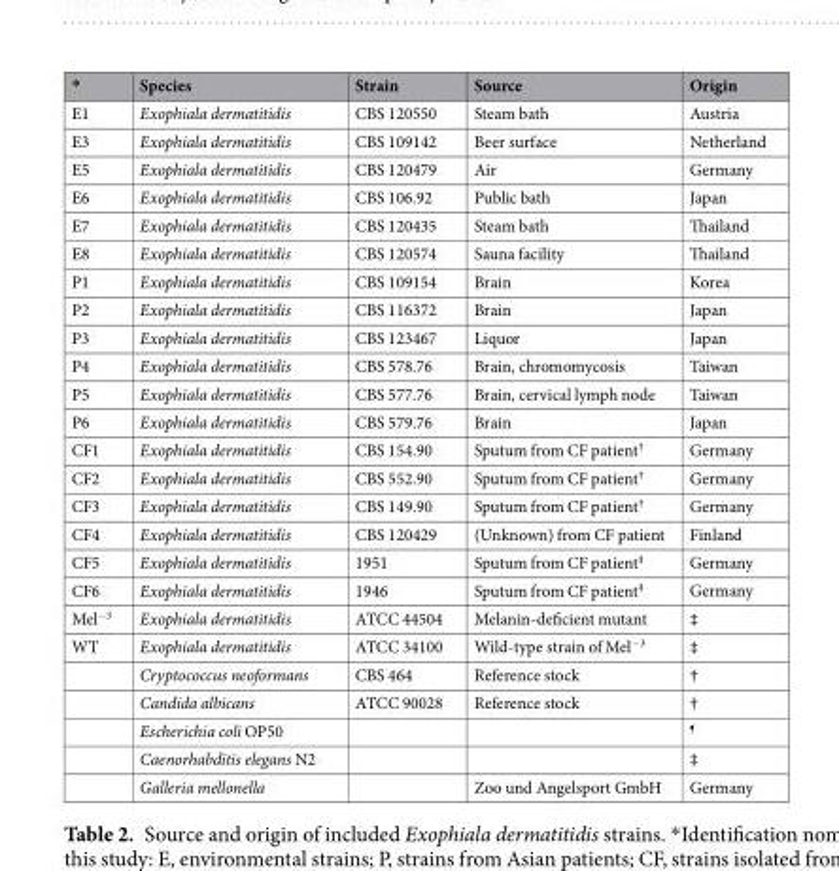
<table><thead><tr><td>*</td><td>Species</td><td>Strain</td><td>Source</td><td>Origin</td></tr></thead><tbody><tr><td>E1</td><td>Exophiala dermatitidis</td><td>CBS 120550</td><td>Steam bath</td><td>Austria</td></tr><tr><td>E3</td><td>Exophiala dermatitidis</td><td>CBS 109142</td><td>Beer surface</td><td>Netherland</td></tr><tr><td>E5</td><td>Exophiala dermatitidis</td><td>CBS 120479</td><td>Air</td><td>Germany</td></tr><tr><td>E6</td><td>Exophiala dermatitidis</td><td>CBS 106.92</td><td>Public bath</td><td>Japan</td></tr><tr><td>E7</td><td>Exophiala dermatitidis</td><td>CBS 120435</td><td>Steam bath</td><td>Thailand</td></tr><tr><td>E8</td><td>Exophiala dermatitidis</td><td>CBS 120574</td><td>Sauna facility</td><td>Thailand</td></tr><tr><td>P1</td><td>Exophiala dermatitidis</td><td>CBS 109154</td><td>Brain</td><td>Korea</td></tr><tr><td>P2</td><td>Exophiala dermatitidis</td><td>CBS 116372</td><td>Brain</td><td>Japan</td></tr><tr><td>P3</td><td>Exophiala dermatitidis</td><td>CBS 123467</td><td>Liquor</td><td>Japan</td></tr><tr><td>P4</td><td>Exophiala dermatitidis</td><td>CBS 578.76</td><td>Brain, chromomycosis</td><td>Taiwan</td></tr><tr><td>P5</td><td>Exophiala dermatitidis</td><td>CBS 577.76</td><td>Brain, cervical lymph node</td><td>Taiwan</td></tr><tr><td>P6</td><td>Exophiala dermatitidis</td><td>CBS 579.76</td><td>Brain</td><td>Japan</td></tr><tr><td>CF1</td><td>Exophiala dermatitidis</td><td>CBS 154.90</td><td>Sputum from CF patient<sup>†</sup></td><td>Germany</td></tr><tr><td>CF2</td><td>Exophiala dermatitidis</td><td>CBS 552.90</td><td>Sputum from CF patient<sup>†</sup></td><td>Germany</td></tr><tr><td>CF3</td><td>Exophiala dermatitidis</td><td>CBS 149.90</td><td>Sputum from CF patient<sup>†</sup></td><td>Germany</td></tr><tr><td>CF4</td><td>Exophiala dermatitidis</td><td>CBS 120429</td><td>(Unknown) from CF patient</td><td>Finland</td></tr><tr><td>CF5</td><td>Exophiala dermatitidis</td><td>1951</td><td>Sputum from CF patient<sup>‡</sup></td><td>Germany</td></tr><tr><td>CF6</td><td>Exophiala dermatitidis</td><td>1946</td><td>Sputum from CF patient<sup>‡</sup></td><td>Germany</td></tr><tr><td>Mel<sup>−3</sup></td><td>Exophiala dermatitidis</td><td>ATCC 44504</td><td>Melanin-deficient mutant</td><td>‡</td></tr><tr><td rowspan="6">WT</td><td>Exophiala dermatitidis</td><td>ATCC 34100</td><td>Wild-type strain of Mel<sup>−3</sup></td><td>‡</td></tr><tr><td>Cryptococcus neoformans</td><td>CBS 464</td><td>Reference stock</td><td>†</td></tr><tr><td>Candida albicans</td><td>ATCC 90028</td><td>Reference stock</td><td>†</td></tr><tr><td>Escherichia coli OP50</td><td></td><td></td><td><sup>¶</sup></td></tr><tr><td>Caenorhabditis elegans N2</td><td></td><td></td><td>‡</td></tr><tr><td>Galleria mellonella</td><td></td><td>Zoo und Angelsport GmbH</td><td>Germany</td></tr></tbody></table>